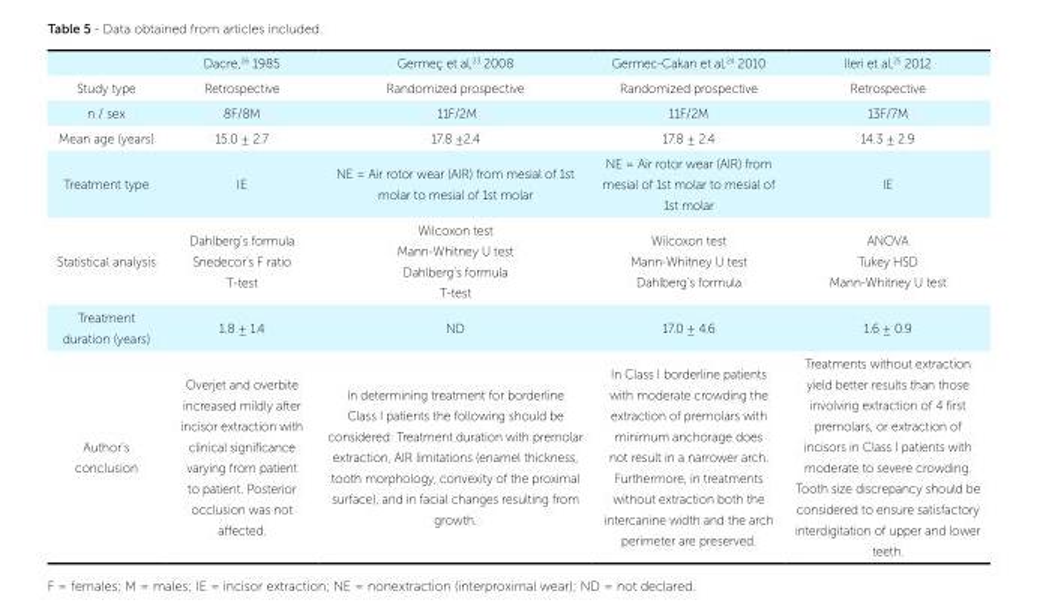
<table><thead><tr><td></td><td>Dacre,<sup>26</sup> 1985</td><td>Germeç et al,<sup>23</sup> 2008</td><td>Germec-Cakan et al,<sup>24</sup> 2010</td><td>Ileri et al,<sup>25</sup> 2012</td></tr></thead><tbody><tr><td>Study type</td><td>Retrospective</td><td>Randomized prospective</td><td>Randomized prospective</td><td>Retrospective</td></tr><tr><td>n / sex</td><td>8F/8M</td><td>11F/2M</td><td>11F/2M</td><td>13F/7M</td></tr><tr><td>Mean age (years)</td><td>15.0 ± 2.7</td><td>17.8 ±2.4</td><td>17.8 ± 2.4</td><td>14.3 ± 2.9</td></tr><tr><td>Treatment type</td><td>IE</td><td>NE = Air rotor wear (AIR) from mesial of 1st molar to mesial of 1st molar</td><td>NE = Air rotor wear (AIR) from mesial of 1st molar to mesial of 1st molar</td><td>IE</td></tr><tr><td>Statistical analysis</td><td>Dahlberg’s formula Snedecor’s F ratio T-test</td><td>Wilcoxon test Mann-Whitney U test Dahlberg’s formula T-test</td><td>Wilcoxon test Mann-Whitney U test Dahlberg’s formula</td><td>ANOVA Tukey HSD Mann-Whitney U test</td></tr><tr><td>Treatment duration (years)</td><td>1.8 ± 1.4</td><td>ND</td><td>17.0 ± 4.6</td><td>1.6 ± 0.9</td></tr><tr><td>Author’s conclusion</td><td>Overjet and overbite increased mildly after incisor extraction with clinical significance varying from patient to patient. Posterior occlusion was not affected.</td><td>In determining treatment for borderline Class I patients the following should be considered: Treatment duration with premolar extraction, AIR limitations (enamel thickness, tooth morphology, convexity of the proximal surface), and in facial changes resulting from growth.</td><td>In Class I borderline patients with moderate crowding the extraction of premolars with minimum anchorage does not result in a narrower arch. Furthermore, in treatments without extraction both the intercanine width and the arch perimeter are preserved.</td><td>Treatments without extraction yield better results than those involving extraction of 4 first premolars, or extraction of incisors in Class I patients with moderate to severe crowding. Tooth size discrepancy should be considered to ensure satisfactory interdigitation of upper and lower teeth.</td></tr></tbody></table>